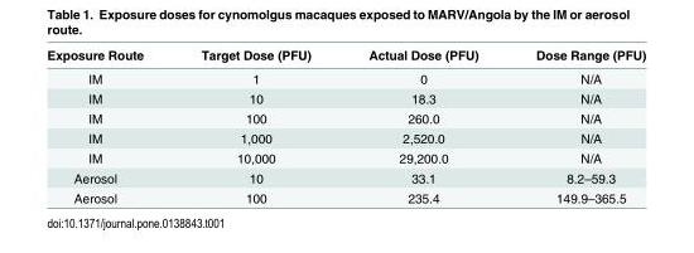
<table><thead><tr><td>Exposure Route</td><td>Target Dose (PFU)</td><td>Actual Dose (PFU)</td><td>Dose Range (PFU)</td></tr></thead><tbody><tr><td>IM</td><td>1</td><td>0</td><td>N/A</td></tr><tr><td>IM</td><td>10</td><td>18.3</td><td>N/A</td></tr><tr><td>IM</td><td>100</td><td>260.0</td><td>N/A</td></tr><tr><td>IM</td><td>1,000</td><td>2,520.0</td><td>N/A</td></tr><tr><td>IM</td><td>10,000</td><td>29,200.0</td><td>N/A</td></tr><tr><td>Aerosol</td><td>10</td><td>33.1</td><td>8.2–59.3</td></tr><tr><td>Aerosol</td><td>100</td><td>235.4</td><td>149.9–365.5</td></tr></tbody></table>